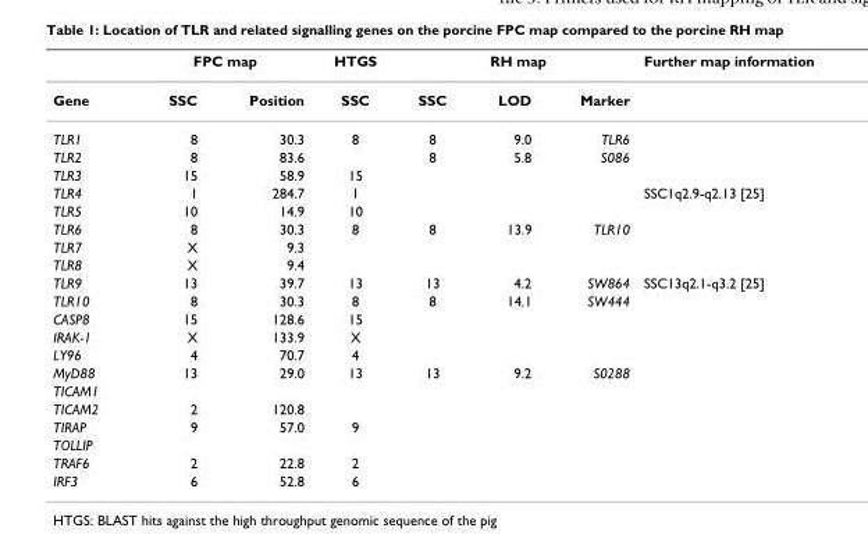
<table><thead><tr><td rowspan="2">Gene</td><td colspan="2">FPC map</td><td rowspan="2">HTGS SSC</td><td colspan="3">RH map</td><td rowspan="2">Further map information</td></tr><tr><td>SSC</td><td>Position</td><td>SSC</td><td>LOD</td><td>Marker</td></tr></thead><tbody><tr><td>TLR1</td><td>8</td><td>30.3</td><td>8</td><td>8</td><td>9.0</td><td>TLR6</td><td></td></tr><tr><td>TLR2</td><td>8</td><td>83.6</td><td></td><td>8</td><td>5.8</td><td>S086</td><td></td></tr><tr><td>TLR3</td><td>15</td><td>58.9</td><td>15</td><td></td><td></td><td></td><td></td></tr><tr><td>TLR4</td><td>1</td><td>284.7</td><td>1</td><td></td><td></td><td></td><td>SSC1q2.9-q2.13 [25]</td></tr><tr><td>TLR5</td><td>10</td><td>14.9</td><td>10</td><td></td><td></td><td></td><td></td></tr><tr><td>TLR6</td><td>8</td><td>30.3</td><td>8</td><td>8</td><td>13.9</td><td>TLR10</td><td></td></tr><tr><td>TLR7</td><td>X</td><td>9.3</td><td></td><td></td><td></td><td></td><td></td></tr><tr><td>TLR8</td><td>X</td><td>9.4</td><td></td><td></td><td></td><td></td><td></td></tr><tr><td>TLR9</td><td>13</td><td>39.7</td><td>13</td><td>13</td><td>4.2</td><td>SW864</td><td>SSC13q2.1-q3.2 [25]</td></tr><tr><td>TLR10</td><td>8</td><td>30.3</td><td>8</td><td>8</td><td>14.1</td><td>SW444</td><td></td></tr><tr><td>CASP8</td><td>15</td><td>128.6</td><td>15</td><td></td><td></td><td></td><td></td></tr><tr><td>IRAK-1</td><td>X</td><td>133.9</td><td>X</td><td></td><td></td><td></td><td></td></tr><tr><td>LY96</td><td>4</td><td>70.7</td><td>4</td><td></td><td></td><td></td><td></td></tr><tr><td>MyD88</td><td>13</td><td>29.0</td><td>13</td><td>13</td><td>9.2</td><td>S0288</td><td></td></tr><tr><td colspan="8">TICAM1</td></tr><tr><td>TICAM2</td><td>2</td><td>120.8</td><td></td><td></td><td></td><td></td><td></td></tr><tr><td>TIRAP</td><td>9</td><td>57.0</td><td>9</td><td></td><td></td><td></td><td></td></tr><tr><td colspan="8">TOLLIP</td></tr><tr><td>TRAF6</td><td>2</td><td>22.8</td><td>2</td><td></td><td></td><td></td><td></td></tr><tr><td>IRF3</td><td>6</td><td>52.8</td><td>6</td><td></td><td></td><td></td><td></td></tr></tbody></table>